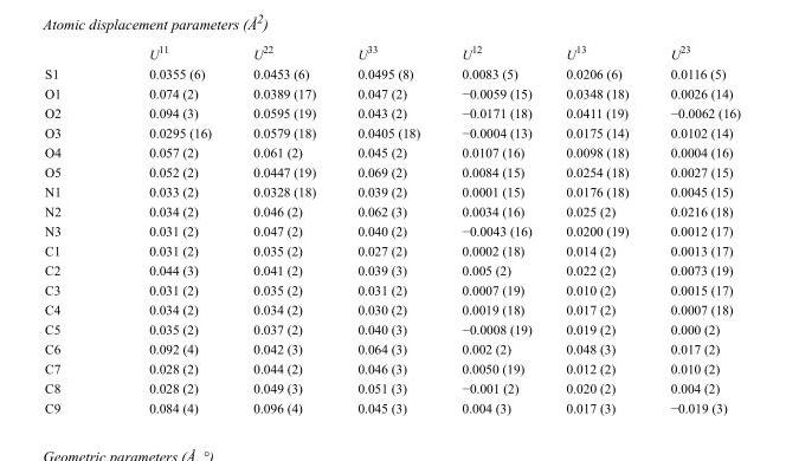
<table><thead><tr><td></td><td>U<sup>11</sup></td><td>U<sup>22</sup></td><td>U<sup>33</sup></td><td>U<sup>12</sup></td><td>U<sup>13</sup></td><td>U<sup>23</sup></td></tr></thead><tbody><tr><td>S1</td><td>0.0355 (6)</td><td>0.0453 (6)</td><td>0.0495 (8)</td><td>0.0083 (5)</td><td>0.0206 (6)</td><td>0.0116 (5)</td></tr><tr><td>O1</td><td>0.074 (2)</td><td>0.0389 (17)</td><td>0.047 (2)</td><td>−0.0059 (15)</td><td>0.0348 (18)</td><td>0.0026 (14)</td></tr><tr><td>O2</td><td>0.094 (3)</td><td>0.0595 (19)</td><td>0.043 (2)</td><td>−0.0171 (18)</td><td>0.0411 (19)</td><td>−0.0062 (16)</td></tr><tr><td>O3</td><td>0.0295 (16)</td><td>0.0579 (18)</td><td>0.0405 (18)</td><td>−0.0004 (13)</td><td>0.0175 (14)</td><td>0.0102 (14)</td></tr><tr><td>O4</td><td>0.057 (2)</td><td>0.061 (2)</td><td>0.045 (2)</td><td>0.0107 (16)</td><td>0.0098 (18)</td><td>0.0004 (16)</td></tr><tr><td>O5</td><td>0.052 (2)</td><td>0.0447 (19)</td><td>0.069 (2)</td><td>0.0084 (15)</td><td>0.0254 (18)</td><td>0.0027 (15)</td></tr><tr><td>N1</td><td>0.033 (2)</td><td>0.0328 (18)</td><td>0.039 (2)</td><td>0.0001 (15)</td><td>0.0176 (18)</td><td>0.0045 (15)</td></tr><tr><td>N2</td><td>0.034 (2)</td><td>0.046 (2)</td><td>0.062 (3)</td><td>0.0034 (16)</td><td>0.025 (2)</td><td>0.0216 (18)</td></tr><tr><td>N3</td><td>0.031 (2)</td><td>0.047 (2)</td><td>0.040 (2)</td><td>−0.0043 (16)</td><td>0.0200 (19)</td><td>0.0012 (17)</td></tr><tr><td>C1</td><td>0.031 (2)</td><td>0.035 (2)</td><td>0.027 (2)</td><td>0.0002 (18)</td><td>0.014 (2)</td><td>0.0013 (17)</td></tr><tr><td>C2</td><td>0.044 (3)</td><td>0.041 (2)</td><td>0.039 (3)</td><td>0.005 (2)</td><td>0.022 (2)</td><td>0.0073 (19)</td></tr><tr><td>C3</td><td>0.031 (2)</td><td>0.035 (2)</td><td>0.031 (2)</td><td>0.0007 (19)</td><td>0.010 (2)</td><td>0.0015 (17)</td></tr><tr><td>C4</td><td>0.034 (2)</td><td>0.034 (2)</td><td>0.030 (2)</td><td>0.0019 (18)</td><td>0.017 (2)</td><td>0.0007 (18)</td></tr><tr><td>C5</td><td>0.035 (2)</td><td>0.037 (2)</td><td>0.040 (3)</td><td>−0.0008 (19)</td><td>0.019 (2)</td><td>0.000 (2)</td></tr><tr><td>C6</td><td>0.092 (4)</td><td>0.042 (3)</td><td>0.064 (3)</td><td>0.002 (2)</td><td>0.048 (3)</td><td>0.017 (2)</td></tr><tr><td>C7</td><td>0.028 (2)</td><td>0.044 (2)</td><td>0.046 (3)</td><td>0.0050 (19)</td><td>0.012 (2)</td><td>0.010 (2)</td></tr><tr><td>C8</td><td>0.028 (2)</td><td>0.049 (3)</td><td>0.051 (3)</td><td>−0.001 (2)</td><td>0.020 (2)</td><td>0.004 (2)</td></tr><tr><td>C9</td><td>0.084 (4)</td><td>0.096 (4)</td><td>0.045 (3)</td><td>0.004 (3)</td><td>0.017 (3)</td><td>−0.019 (3)</td></tr></tbody></table>